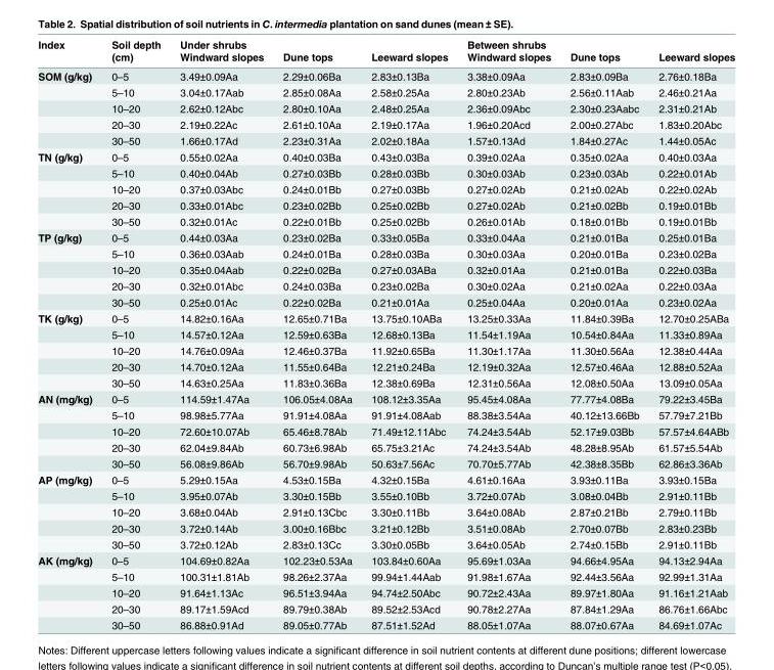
<table><thead><tr><td rowspan="2">Index</td><td rowspan="2">Soil depth (cm)</td><td rowspan="2">Under shrubs Windward slopes</td><td rowspan="2">Dune tops</td><td rowspan="2">Leeward slopes</td><td rowspan="2">Between shrubs Windward slopes</td><td rowspan="2">Dune tops</td><td rowspan="2">Leeward slopes</td></tr><tr></tr></thead><tbody><tr><td rowspan="5">SOM (g/kg)</td><td>0–5</td><td>3.49±0.09Aa</td><td>2.29±0.06Ba</td><td>2.83±0.13Ba</td><td>3.38±0.09Aa</td><td>2.83±0.09Ba</td><td>2.76±0.18Ba</td></tr><tr><td>5–10</td><td>3.04±0.17Aab</td><td>2.85±0.08Aa</td><td>2.58±0.25Aa</td><td>2.80±0.23Ab</td><td>2.56±0.11Aab</td><td>2.46±0.21Aa</td></tr><tr><td>10–20</td><td>2.62±0.12Abc</td><td>2.80±0.10Aa</td><td>2.48±0.25Aa</td><td>2.36±0.09Abc</td><td>2.30±0.23Aabc</td><td>2.31±0.21Ab</td></tr><tr><td>20–30</td><td>2.19±0.22Ac</td><td>2.61±0.10Aa</td><td>2.19±0.17Aa</td><td>1.96±0.20Acd</td><td>2.00±0.27Abc</td><td>1.83±0.20Abc</td></tr><tr><td>30–50</td><td>1.66±0.17Ad</td><td>2.23±0.31Aa</td><td>2.02±0.18Aa</td><td>1.57±0.13Ad</td><td>1.84±0.27Ac</td><td>1.44±0.05Ac</td></tr><tr><td rowspan="5">TN (g/kg)</td><td>0–5</td><td>0.55±0.02Aa</td><td>0.40±0.03Ba</td><td>0.43±0.03Ba</td><td>0.39±0.02Aa</td><td>0.35±0.02Aa</td><td>0.40±0.03Aa</td></tr><tr><td>5–10</td><td>0.40±0.04Ab</td><td>0.27±0.03Bb</td><td>0.28±0.03Bb</td><td>0.30±0.03Ab</td><td>0.23±0.03Ab</td><td>0.22±0.01Ab</td></tr><tr><td>10–20</td><td>0.37±0.03Abc</td><td>0.24±0.01Bb</td><td>0.27±0.03Bb</td><td>0.27±0.02Ab</td><td>0.21±0.02Ab</td><td>0.22±0.02Ab</td></tr><tr><td>20–30</td><td>0.33±0.01Abc</td><td>0.23±0.02Bb</td><td>0.25±0.02Bb</td><td>0.27±0.02Ab</td><td>0.21±0.02Bb</td><td>0.19±0.01Bb</td></tr><tr><td>30–50</td><td>0.32±0.01Ac</td><td>0.22±0.01Bb</td><td>0.25±0.02Bb</td><td>0.26±0.01Ab</td><td>0.18±0.01Bb</td><td>0.19±0.01Bb</td></tr><tr><td rowspan="5">TP (g/kg)</td><td>0–5</td><td>0.44±0.03Aa</td><td>0.23±0.02Ba</td><td>0.33±0.05Ba</td><td>0.33±0.04Aa</td><td>0.21±0.01Ba</td><td>0.25±0.01Ba</td></tr><tr><td>5–10</td><td>0.36±0.03Aab</td><td>0.24±0.01Ba</td><td>0.28±0.03Ba</td><td>0.30±0.03Aa</td><td>0.20±0.01Ba</td><td>0.23±0.02Ba</td></tr><tr><td>10–20</td><td>0.35±0.04Aab</td><td>0.22±0.02Ba</td><td>0.27±0.03ABa</td><td>0.32±0.01Aa</td><td>0.21±0.01Ba</td><td>0.22±0.03Ba</td></tr><tr><td>20–30</td><td>0.32±0.01Abc</td><td>0.24±0.03Ba</td><td>0.23±0.02Ba</td><td>0.30±0.02Aa</td><td>0.21±0.02Aa</td><td>0.22±0.03Aa</td></tr><tr><td>30–50</td><td>0.25±0.01Ac</td><td>0.22±0.02Ba</td><td>0.21±0.01Aa</td><td>0.25±0.04Aa</td><td>0.20±0.01Aa</td><td>0.23±0.02Aa</td></tr><tr><td rowspan="5">TK (g/kg)</td><td>0–5</td><td>14.82±0.16Aa</td><td>12.65±0.71Ba</td><td>13.75±0.10ABa</td><td>13.25±0.33Aa</td><td>11.84±0.39Ba</td><td>12.70±0.25ABa</td></tr><tr><td>5–10</td><td>14.57±0.12Aa</td><td>12.59±0.63Ba</td><td>12.68±0.13Ba</td><td>11.54±1.19Aa</td><td>10.54±0.84Aa</td><td>11.33±0.89Aa</td></tr><tr><td>10–20</td><td>14.76±0.09Aa</td><td>12.46±0.37Ba</td><td>11.92±0.65Ba</td><td>11.30±1.17Aa</td><td>11.30±0.56Aa</td><td>12.38±0.44Aa</td></tr><tr><td>20–30</td><td>14.70±0.12Aa</td><td>11.55±0.64Ba</td><td>12.21±0.24Ba</td><td>12.19±0.32Aa</td><td>12.57±0.46Aa</td><td>12.88±0.52Aa</td></tr><tr><td>30–50</td><td>14.63±0.25Aa</td><td>11.83±0.36Ba</td><td>12.38±0.69Ba</td><td>12.31±0.56Aa</td><td>12.08±0.50Aa</td><td>13.09±0.05Aa</td></tr><tr><td rowspan="5">AN (mg/kg)</td><td>0–5</td><td>114.59±1.47Aa</td><td>106.05±4.08Aa</td><td>108.12±3.35Aa</td><td>95.45±4.08Aa</td><td>77.77±4.08Ba</td><td>79.22±3.45Ba</td></tr><tr><td>5–10</td><td>98.98±5.77Aa</td><td>91.91±4.08Aa</td><td>91.91±4.08Aab</td><td>88.38±3.54Aa</td><td>40.12±13.66Bb</td><td>57.79±7.21Bb</td></tr><tr><td>10–20</td><td>72.60±10.07Ab</td><td>65.46±8.78Ab</td><td>71.49±12.11Abc</td><td>74.24±3.54Ab</td><td>52.17±9.03Bb</td><td>57.57±4.64ABb</td></tr><tr><td>20–30</td><td>62.04±9.84Ab</td><td>60.73±6.98Ab</td><td>65.75±3.21Ac</td><td>74.24±3.54Ab</td><td>48.28±8.95Ab</td><td>61.57±5.54Ab</td></tr><tr><td>30–50</td><td>56.08±9.86Ab</td><td>56.70±9.98Ab</td><td>50.63±7.56Ac</td><td>70.70±5.77Ab</td><td>42.38±8.35Bb</td><td>62.86±3.36Ab</td></tr><tr><td rowspan="5">AP (mg/kg)</td><td>0–5</td><td>5.29±0.15Aa</td><td>4.53±0.15Ba</td><td>4.32±0.15Ba</td><td>4.61±0.16Aa</td><td>3.93±0.11Ba</td><td>3.93±0.15Ba</td></tr><tr><td>5–10</td><td>3.95±0.07Ab</td><td>3.30±0.15Bb</td><td>3.55±0.10Bb</td><td>3.72±0.07Ab</td><td>3.08±0.04Bb</td><td>2.91±0.11Bb</td></tr><tr><td>10–20</td><td>3.68±0.04Ab</td><td>2.91±0.13Cbc</td><td>3.30±0.11Bb</td><td>3.64±0.08Ab</td><td>2.87±0.21Bb</td><td>2.79±0.11Bb</td></tr><tr><td>20–30</td><td>3.72±0.14Ab</td><td>3.00±0.16Bbc</td><td>3.21±0.12Bb</td><td>3.51±0.08Ab</td><td>2.70±0.07Bb</td><td>2.83±0.23Bb</td></tr><tr><td>30–50</td><td>3.72±0.12Ab</td><td>2.83±0.13Cc</td><td>3.30±0.05Bb</td><td>3.64±0.05Ab</td><td>2.74±0.15Bb</td><td>2.91±0.11Bb</td></tr><tr><td rowspan="5">AK (mg/kg)</td><td>0–5</td><td>104.69±0.82Aa</td><td>102.23±0.53Aa</td><td>103.84±0.60Aa</td><td>95.69±1.03Aa</td><td>94.66±4.95Aa</td><td>94.13±2.94Aa</td></tr><tr><td>5–10</td><td>100.31±1.81Ab</td><td>98.26±2.37Aa</td><td>99.94±1.44Aab</td><td>91.98±1.67Aa</td><td>92.44±3.56Aa</td><td>92.99±1.31Aa</td></tr><tr><td>10–20</td><td>91.64±1.13Ac</td><td>96.51±3.94Aa</td><td>94.74±2.50Abc</td><td>90.72±2.43Aa</td><td>89.97±1.80Aa</td><td>91.16±1.21Aab</td></tr><tr><td>20–30</td><td>89.17±1.59Acd</td><td>89.79±0.38Ab</td><td>89.52±2.53Acd</td><td>90.78±2.27Aa</td><td>87.84±1.29Aa</td><td>86.76±1.66Abc</td></tr><tr><td>30–50</td><td>86.88±0.91Ad</td><td>89.05±0.77Ab</td><td>87.51±1.52Ad</td><td>88.05±1.07Aa</td><td>88.07±0.67Aa</td><td>84.69±1.07Ac</td></tr></tbody></table>